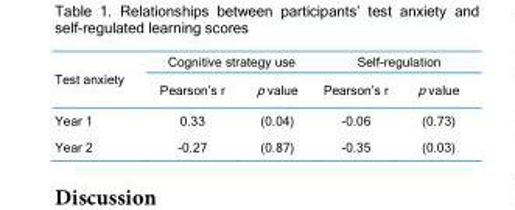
<table><thead><tr><td rowspan="2">Test anxiety</td><td colspan="2">Cognitive strategy use</td><td colspan="2">Self-regulation</td></tr><tr><td>Pearson’s r</td><td>p value</td><td>Pearson’s r</td><td>p value</td></tr></thead><tbody><tr><td>Year 1</td><td>0.33</td><td>(0.04)</td><td>-0.06</td><td>(0.73)</td></tr><tr><td>Year 2</td><td>-0.27</td><td>(0.87)</td><td>-0.35</td><td>(0.03)</td></tr></tbody></table>